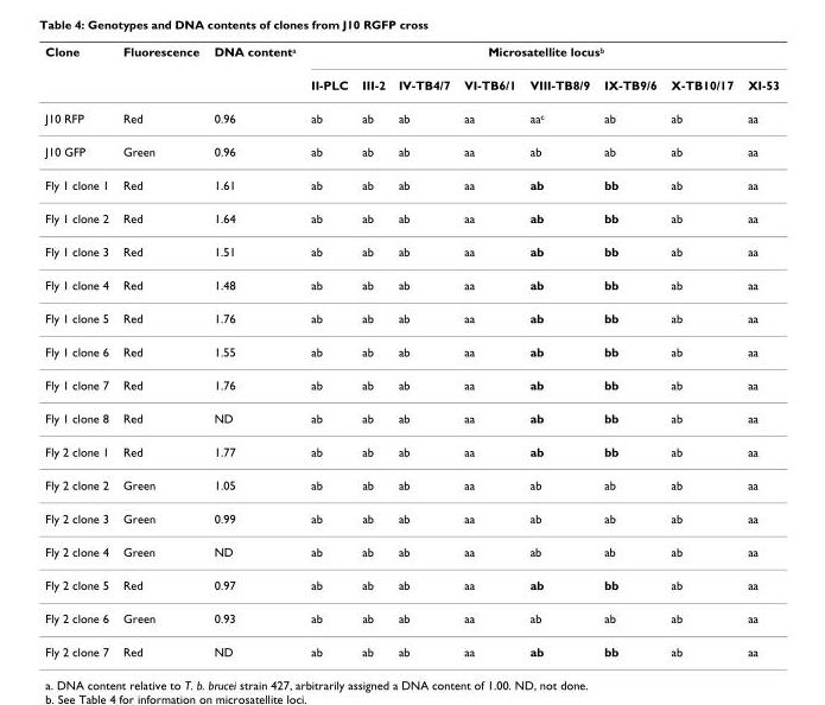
<table><thead><tr><td rowspan="2">Clone</td><td rowspan="2">Fluorescence</td><td rowspan="2">DNA content<sup>a</sup></td><td colspan="8">Microsatellite locus<sup>b</sup></td></tr><tr><td>II-PLC</td><td>III-2</td><td>IV-TB4/7</td><td>VI-TB6/1</td><td>VIII-TB8/9</td><td>IX-TB9/6</td><td>X-TB10/17</td><td>XI-53</td></tr></thead><tbody><tr><td>J10 RFP</td><td>Red</td><td>0.96</td><td>ab</td><td>ab</td><td>ab</td><td>aa</td><td>aa<sup>c</sup></td><td>ab</td><td>ab</td><td>aa</td></tr><tr><td>J10 GFP</td><td>Green</td><td>0.96</td><td>ab</td><td>ab</td><td>ab</td><td>aa</td><td>ab</td><td>ab</td><td>ab</td><td>aa</td></tr><tr><td>Fly 1 clone 1</td><td>Red</td><td>1.61</td><td>ab</td><td>ab</td><td>ab</td><td>aa</td><td>ab</td><td>bb</td><td>ab</td><td>aa</td></tr><tr><td>Fly 1 clone 2</td><td>Red</td><td>1.64</td><td>ab</td><td>ab</td><td>ab</td><td>aa</td><td>ab</td><td>bb</td><td>ab</td><td>aa</td></tr><tr><td>Fly 1 clone 3</td><td>Red</td><td>1.51</td><td>ab</td><td>ab</td><td>ab</td><td>aa</td><td>ab</td><td>bb</td><td>ab</td><td>aa</td></tr><tr><td>Fly 1 clone 4</td><td>Red</td><td>1.48</td><td>ab</td><td>ab</td><td>ab</td><td>aa</td><td>ab</td><td>bb</td><td>ab</td><td>aa</td></tr><tr><td>Fly 1 clone 5</td><td>Red</td><td>1.76</td><td>ab</td><td>ab</td><td>ab</td><td>aa</td><td>ab</td><td>bb</td><td>ab</td><td>aa</td></tr><tr><td>Fly 1 clone 6</td><td>Red</td><td>1.55</td><td>ab</td><td>ab</td><td>ab</td><td>aa</td><td>ab</td><td>bb</td><td>ab</td><td>aa</td></tr><tr><td>Fly 1 clone 7</td><td>Red</td><td>1.76</td><td>ab</td><td>ab</td><td>ab</td><td>aa</td><td>ab</td><td>bb</td><td>ab</td><td>aa</td></tr><tr><td>Fly 1 clone 8</td><td>Red</td><td>ND</td><td>ab</td><td>ab</td><td>ab</td><td>aa</td><td>ab</td><td>bb</td><td>ab</td><td>aa</td></tr><tr><td>Fly 2 clone 1</td><td>Red</td><td>1.77</td><td>ab</td><td>ab</td><td>ab</td><td>aa</td><td>ab</td><td>bb</td><td>ab</td><td>aa</td></tr><tr><td>Fly 2 clone 2</td><td>Green</td><td>1.05</td><td>ab</td><td>ab</td><td>ab</td><td>aa</td><td>ab</td><td>ab</td><td>ab</td><td>aa</td></tr><tr><td>Fly 2 clone 3</td><td>Green</td><td>0.99</td><td>ab</td><td>ab</td><td>ab</td><td>aa</td><td>ab</td><td>ab</td><td>ab</td><td>aa</td></tr><tr><td>Fly 2 clone 4</td><td>Green</td><td>ND</td><td>ab</td><td>ab</td><td>ab</td><td>aa</td><td>ab</td><td>ab</td><td>ab</td><td>aa</td></tr><tr><td>Fly 2 clone 5</td><td>Red</td><td>0.97</td><td>ab</td><td>ab</td><td>ab</td><td>aa</td><td>ab</td><td>bb</td><td>ab</td><td>aa</td></tr><tr><td>Fly 2 clone 6</td><td>Green</td><td>0.93</td><td>ab</td><td>ab</td><td>ab</td><td>aa</td><td>ab</td><td>ab</td><td>ab</td><td>aa</td></tr><tr><td>Fly 2 clone 7</td><td>Red</td><td>ND</td><td>ab</td><td>ab</td><td>ab</td><td>aa</td><td>ab</td><td>bb</td><td>ab</td><td>aa</td></tr></tbody></table>